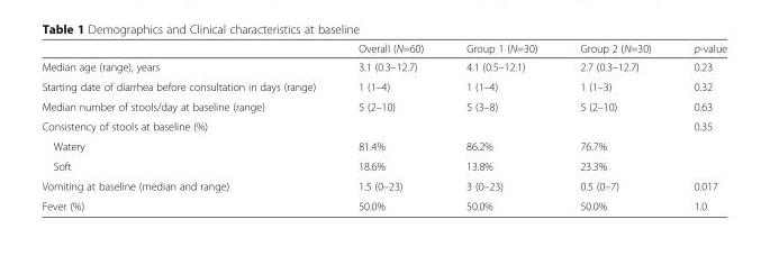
<table><thead><tr><td></td><td>Overall (N=60)</td><td>Group 1 (N=30)</td><td>Group 2 (N=30)</td><td>p-value</td></tr></thead><tbody><tr><td>Median age (range), years</td><td>3.1 (0.3–12.7)</td><td>4.1 (0.5–12.1)</td><td>2.7 (0.3–12.7)</td><td>0.23</td></tr><tr><td>Starting date of diarrhea before consultation in days (range)</td><td>1 (1–4)</td><td>1 (1–4)</td><td>1 (1–3)</td><td>0.32</td></tr><tr><td>Median number of stools/day at baseline (range)</td><td>5 (2–10)</td><td>5 (3–8)</td><td>5 (2–10)</td><td>0.63</td></tr><tr><td>Consistency of stools at baseline (%)</td><td></td><td></td><td></td><td>0.35</td></tr><tr><td>Watery</td><td>81.4%</td><td>86.2%</td><td>76.7%</td><td></td></tr><tr><td>Soft</td><td>18.6%</td><td>13.8%</td><td>23.3%</td><td></td></tr><tr><td>Vomiting at baseline (median and range)</td><td>1.5 (0–23)</td><td>3 (0–23)</td><td>0.5 (0–7)</td><td>0.017</td></tr><tr><td>Fever (%)</td><td>50.0%</td><td>50.0%</td><td>50.0%</td><td>1.0</td></tr></tbody></table>